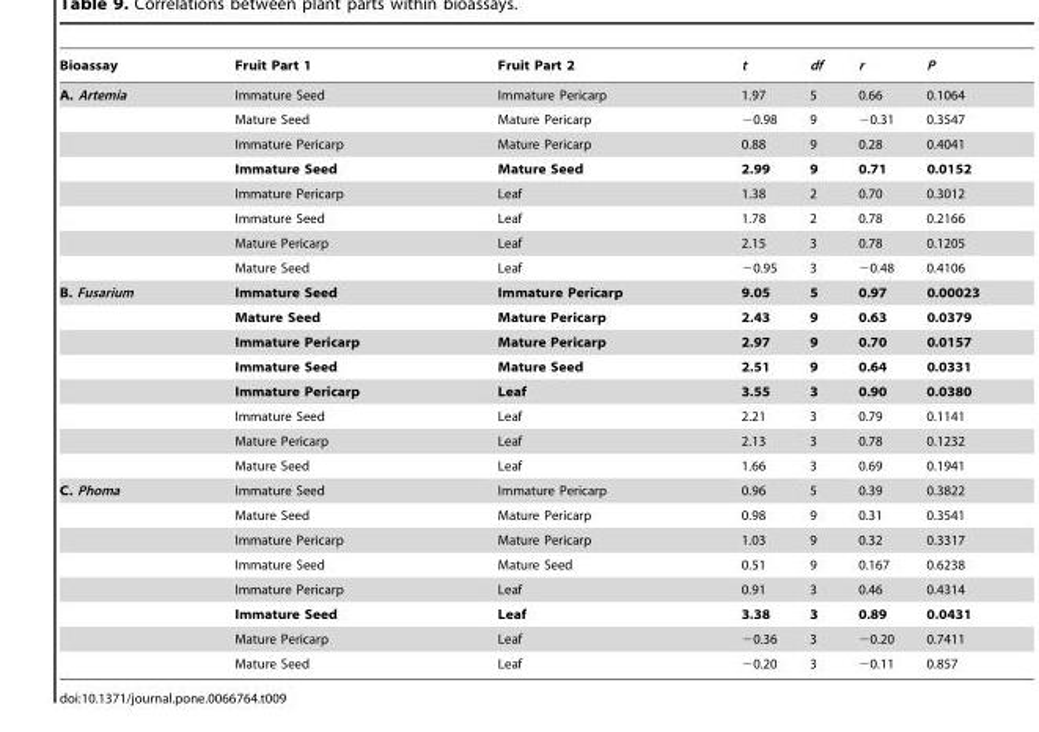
<table><thead><tr><td>Bioassay</td><td>Fruit Part 1</td><td>Fruit Part 2</td><td>t</td><td>df</td><td>r</td><td>P</td></tr></thead><tbody><tr><td rowspan="8">A. Artemia</td><td>Immature Seed</td><td>Immature Pericarp</td><td>1.97</td><td>5</td><td>0.66</td><td>0.1064</td></tr><tr><td>Mature Seed</td><td>Mature Pericarp</td><td>−0.98</td><td>9</td><td>−0.31</td><td>0.3547</td></tr><tr><td>Immature Pericarp</td><td>Mature Pericarp</td><td>0.88</td><td>9</td><td>0.28</td><td>0.4041</td></tr><tr><td>Immature Seed</td><td>Mature Seed</td><td>2.99</td><td>9</td><td>0.71</td><td>0.0152</td></tr><tr><td>Immature Pericarp</td><td>Leaf</td><td>1.38</td><td>2</td><td>0.70</td><td>0.3012</td></tr><tr><td>Immature Seed</td><td>Leaf</td><td>1.78</td><td>2</td><td>0.78</td><td>0.2166</td></tr><tr><td>Mature Pericarp</td><td>Leaf</td><td>2.15</td><td>3</td><td>0.78</td><td>0.1205</td></tr><tr><td>Mature Seed</td><td>Leaf</td><td>−0.95</td><td>3</td><td>−0.48</td><td>0.4106</td></tr><tr><td rowspan="8">B. Fusarium</td><td>Immature Seed</td><td>Immature Pericarp</td><td>9.05</td><td>5</td><td>0.97</td><td>0.00023</td></tr><tr><td>Mature Seed</td><td>Mature Pericarp</td><td>2.43</td><td>9</td><td>0.63</td><td>0.0379</td></tr><tr><td>Immature Pericarp</td><td>Mature Pericarp</td><td>2.97</td><td>9</td><td>0.70</td><td>0.0157</td></tr><tr><td>Immature Seed</td><td>Mature Seed</td><td>2.51</td><td>9</td><td>0.64</td><td>0.0331</td></tr><tr><td>Immature Pericarp</td><td>Leaf</td><td>3.55</td><td>3</td><td>0.90</td><td>0.0380</td></tr><tr><td>Immature Seed</td><td>Leaf</td><td>2.21</td><td>3</td><td>0.79</td><td>0.1141</td></tr><tr><td>Mature Pericarp</td><td>Leaf</td><td>2.13</td><td>3</td><td>0.78</td><td>0.1232</td></tr><tr><td>Mature Seed</td><td>Leaf</td><td>1.66</td><td>3</td><td>0.69</td><td>0.1941</td></tr><tr><td rowspan="8">C. Phoma</td><td>Immature Seed</td><td>Immature Pericarp</td><td>0.96</td><td>5</td><td>0.39</td><td>0.3822</td></tr><tr><td>Mature Seed</td><td>Mature Pericarp</td><td>0.98</td><td>9</td><td>0.31</td><td>0.3541</td></tr><tr><td>Immature Pericarp</td><td>Mature Pericarp</td><td>1.03</td><td>9</td><td>0.32</td><td>0.3317</td></tr><tr><td>Immature Seed</td><td>Mature Seed</td><td>0.51</td><td>9</td><td>0.167</td><td>0.6238</td></tr><tr><td>Immature Pericarp</td><td>Leaf</td><td>0.91</td><td>3</td><td>0.46</td><td>0.4314</td></tr><tr><td>Immature Seed</td><td>Leaf</td><td>3.38</td><td>3</td><td>0.89</td><td>0.0431</td></tr><tr><td>Mature Pericarp</td><td>Leaf</td><td>−0.36</td><td>3</td><td>−0.20</td><td>0.7411</td></tr><tr><td>Mature Seed</td><td>Leaf</td><td>−0.20</td><td>3</td><td>−0.11</td><td>0.857</td></tr></tbody></table>